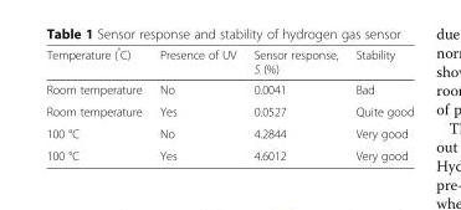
<table><thead><tr><td>Temperature (<sup>°</sup>C)</td><td>Presence of UV</td><td>Sensor response, S (%)</td><td>Stability</td></tr></thead><tbody><tr><td>Room temperature</td><td>No</td><td>0.0041</td><td>Bad</td></tr><tr><td>Room temperature</td><td>Yes</td><td>0.0527</td><td>Quite good</td></tr><tr><td>100 °C</td><td>No</td><td>4.2844</td><td>Very good</td></tr><tr><td>100 °C</td><td>Yes</td><td>4.6012</td><td>Very good</td></tr></tbody></table>